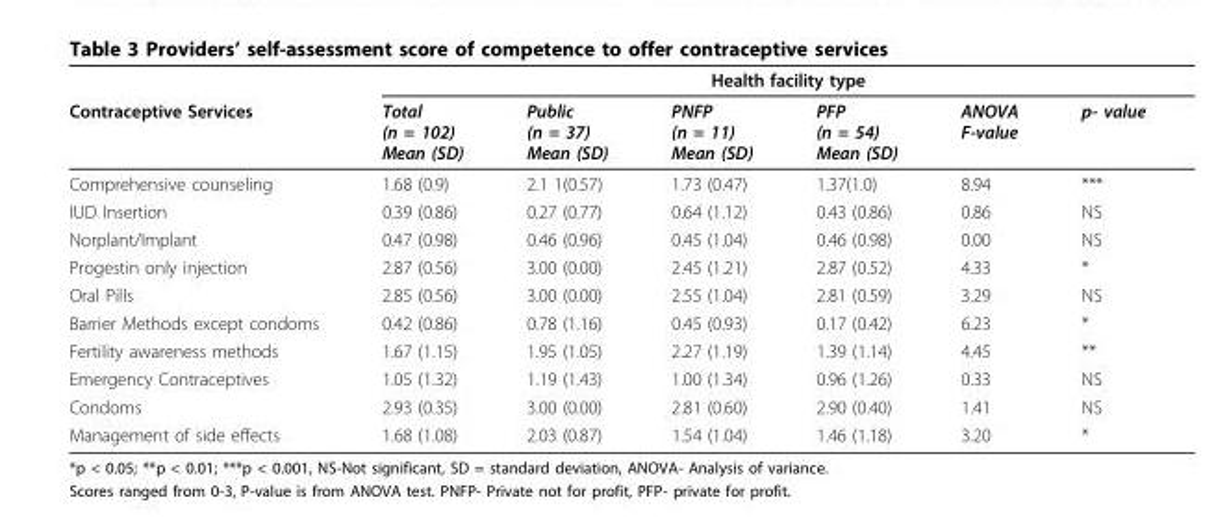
<table><thead><tr><td rowspan="2">Contraceptive Services</td><td colspan="6">Health facility type</td></tr><tr><td>Total (n = 102) Mean (SD)</td><td>Public (n = 37) Mean (SD)</td><td>PNFP (n = 11) Mean (SD)</td><td>PFP (n = 54) Mean (SD)</td><td>ANOVA F-value</td><td>p- value</td></tr></thead><tbody><tr><td>Comprehensive counseling</td><td>1.68 (0.9)</td><td>2.1 1(0.57)</td><td>1.73 (0.47)</td><td>1.37(1.0)</td><td>8.94</td><td>***</td></tr><tr><td>IUD Insertion</td><td>0.39 (0.86)</td><td>0.27 (0.77)</td><td>0.64 (1.12)</td><td>0.43 (0.86)</td><td>0.86</td><td>NS</td></tr><tr><td>Norplant/Implant</td><td>0.47 (0.98)</td><td>0.46 (0.96)</td><td>0.45 (1.04)</td><td>0.46 (0.98)</td><td>0.00</td><td>NS</td></tr><tr><td>Progestin only injection</td><td>2.87 (0.56)</td><td>3.00 (0.00)</td><td>2.45 (1.21)</td><td>2.87 (0.52)</td><td>4.33</td><td>*</td></tr><tr><td>Oral Pills</td><td>2.85 (0.56)</td><td>3.00 (0.00)</td><td>2.55 (1.04)</td><td>2.81 (0.59)</td><td>3.29</td><td>NS</td></tr><tr><td>Barrier Methods except condoms</td><td>0.42 (0.86)</td><td>0.78 (1.16)</td><td>0.45 (0.93)</td><td>0.17 (0.42)</td><td>6.23</td><td>*</td></tr><tr><td>Fertility awareness methods</td><td>1.67 (1.15)</td><td>1.95 (1.05)</td><td>2.27 (1.19)</td><td>1.39 (1.14)</td><td>4.45</td><td>**</td></tr><tr><td>Emergency Contraceptives</td><td>1.05 (1.32)</td><td>1.19 (1.43)</td><td>1.00 (1.34)</td><td>0.96 (1.26)</td><td>0.33</td><td>NS</td></tr><tr><td>Condoms</td><td>2.93 (0.35)</td><td>3.00 (0.00)</td><td>2.81 (0.60)</td><td>2.90 (0.40)</td><td>1.41</td><td>NS</td></tr><tr><td>Management of side effects</td><td>1.68 (1.08)</td><td>2.03 (0.87)</td><td>1.54 (1.04)</td><td>1.46 (1.18)</td><td>3.20</td><td>*</td></tr></tbody></table>